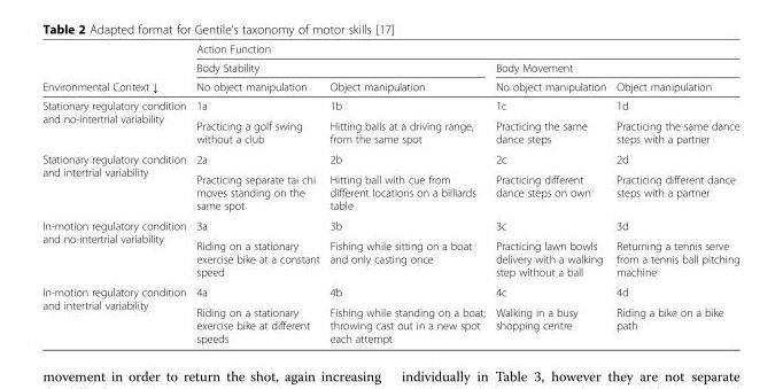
<table><thead><tr><td rowspan="3">Environmental Context ↓</td><td colspan="4">Action Function</td></tr><tr><td colspan="2">Body Stability</td><td colspan="2">Body Movement</td></tr><tr><td>No object manipulation</td><td>Object manipulation</td><td>No object manipulation</td><td>Object manipulation</td></tr></thead><tbody><tr><td rowspan="2">Stationary regulatory condition and no-intertrial variability</td><td>1a</td><td>1b</td><td>1c</td><td>1d</td></tr><tr><td>Practicing a golf swing without a club</td><td>Hitting balls at a driving range, from the same spot</td><td>Practicing the same dance steps</td><td>Practicing the same dance steps with a partner</td></tr><tr><td rowspan="2">Stationary regulatory condition and intertrial variability</td><td>2a</td><td>2b</td><td>2c</td><td>2d</td></tr><tr><td>Practicing separate tai chi moves standing on the same spot</td><td>Hitting ball with cue from different locations on a billiards table</td><td>Practicing different dance steps on own</td><td>Practicing different dance steps with a partner</td></tr><tr><td rowspan="2">In-motion regulatory condition and no-intertrial variability</td><td>3a</td><td>3b</td><td>3c</td><td>3d</td></tr><tr><td>Riding on a stationary exercise bike at a constant speed</td><td>Fishing while sitting on a boat and only casting once</td><td>Practicing lawn bowls delivery with a walking step without a ball</td><td>Returning a tennis serve from a tennis ball pitching machine</td></tr><tr><td rowspan="2">In-motion regulatory condition and intertrial variability</td><td>4a</td><td>4b</td><td>4c</td><td>4d</td></tr><tr><td>Riding on a stationary exercise bike at different speeds</td><td>Fishing while standing on a boat; throwing cast out in a new spot each attempt</td><td>Walking in a busy shopping centre</td><td>Riding a bike on a bike path</td></tr></tbody></table>